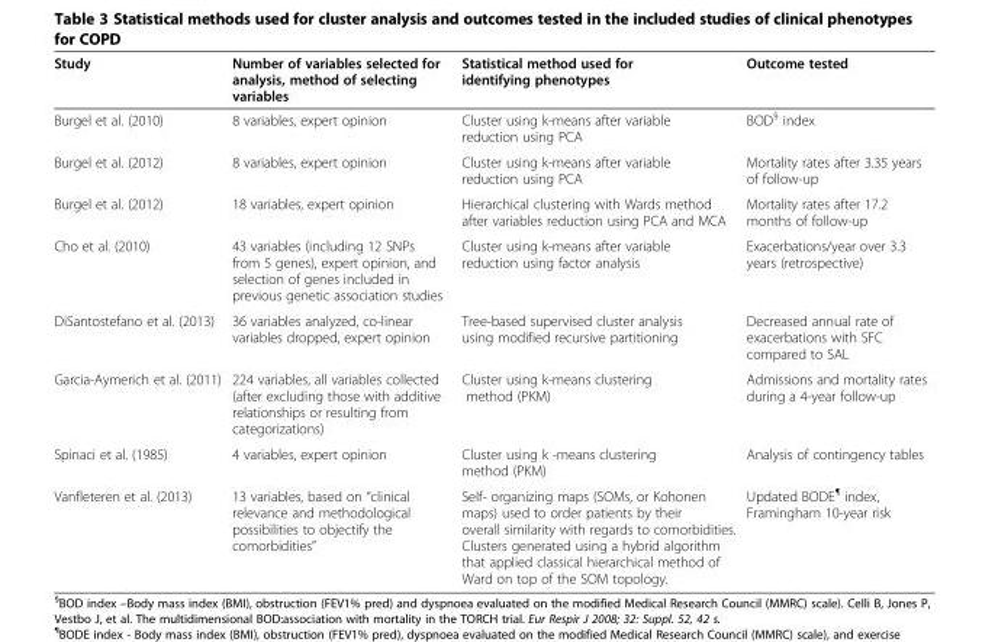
<table><thead><tr><td>Study</td><td>Number of variables selected for analysis, method of selecting variables</td><td>Statistical method used for identifying phenotypes</td><td>Outcome tested</td></tr></thead><tbody><tr><td>Burgel et al. (2010)</td><td>8 variables, expert opinion</td><td>Cluster using k-means after variable reduction using PCA</td><td>BOD<sup>§</sup> index</td></tr><tr><td>Burgel et al. (2012)</td><td>8 variables, expert opinion</td><td>Cluster using k-means after variable reduction using PCA</td><td>Mortality rates after 3.35 years of follow-up</td></tr><tr><td>Burgel et al. (2012)</td><td>18 variables, expert opinion</td><td>Hierarchical clustering with Wards method after variables reduction using PCA and MCA</td><td>Mortality rates after 17.2 months of follow-up</td></tr><tr><td>Cho et al. (2010)</td><td>43 variables (including 12 SNPs from 5 genes), expert opinion, and selection of genes included in previous genetic association studies</td><td>Cluster using k-means after variable reduction using factor analysis</td><td>Exacerbations/year over 3.3 years (retrospective)</td></tr><tr><td>DiSantostefano et al. (2013)</td><td>36 variables analyzed, co-linear variables dropped, expert opinion</td><td>Tree-based supervised cluster analysis using modified recursive partitioning</td><td>Decreased annual rate of exacerbations with SFC compared to SAL</td></tr><tr><td>Garcia-Aymerich et al. (2011)</td><td>224 variables, all variables collected (after excluding those with additive relationships or resulting from categorizations)</td><td>Cluster using k-means clustering method (PKM)</td><td>Admissions and mortality rates during a 4-year follow-up</td></tr><tr><td>Spinaci et al. (1985)</td><td>4 variables, expert opinion</td><td>Cluster using k -means clustering method (PKM)</td><td>Analysis of contingency tables</td></tr><tr><td>Vanfleteren et al. (2013)</td><td>13 variables, based on “clinical relevance and methodological possibilities to objectify the comorbidities”</td><td>Self- organizing maps (SOMs, or Kohonen maps) used to order patients by their overall similarity with regards to comorbidities. Clusters generated using a hybrid algorithm that applied classical hierarchical method of Ward on top of the SOM topology.</td><td>Updated BODE<sup>¶</sup> index, Framingham 10-year risk</td></tr></tbody></table>